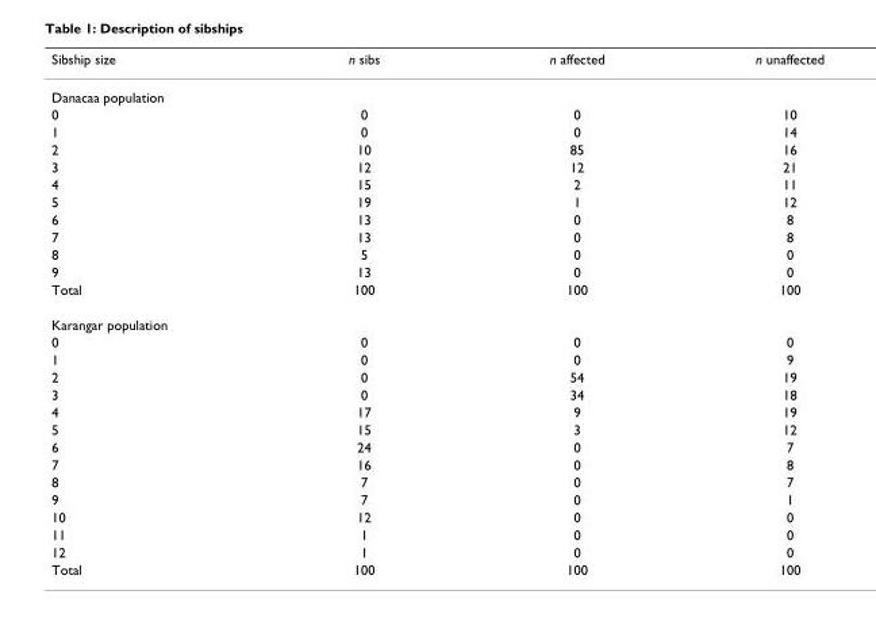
<table><thead><tr><td>Sibship size</td><td>n sibs</td><td>n affected</td><td>n unaffected</td></tr></thead><tbody><tr><td colspan="4">Danacaa population</td></tr><tr><td>0</td><td>0</td><td>0</td><td>10</td></tr><tr><td>1</td><td>0</td><td>0</td><td>14</td></tr><tr><td>2</td><td>10</td><td>85</td><td>16</td></tr><tr><td>3</td><td>12</td><td>12</td><td>21</td></tr><tr><td>4</td><td>15</td><td>2</td><td>11</td></tr><tr><td>5</td><td>19</td><td>1</td><td>12</td></tr><tr><td>6</td><td>13</td><td>0</td><td>8</td></tr><tr><td>7</td><td>13</td><td>0</td><td>8</td></tr><tr><td>8</td><td>5</td><td>0</td><td>0</td></tr><tr><td>9</td><td>13</td><td>0</td><td>0</td></tr><tr><td>Total</td><td>100</td><td>100</td><td>100</td></tr><tr><td colspan="4">Karangar population</td></tr><tr><td>0</td><td>0</td><td>0</td><td>0</td></tr><tr><td>1</td><td>0</td><td>0</td><td>9</td></tr><tr><td>2</td><td>0</td><td>54</td><td>19</td></tr><tr><td>3</td><td>0</td><td>34</td><td>18</td></tr><tr><td>4</td><td>17</td><td>9</td><td>19</td></tr><tr><td>5</td><td>15</td><td>3</td><td>12</td></tr><tr><td>6</td><td>24</td><td>0</td><td>7</td></tr><tr><td>7</td><td>16</td><td>0</td><td>8</td></tr><tr><td>8</td><td>7</td><td>0</td><td>7</td></tr><tr><td>9</td><td>7</td><td>0</td><td>1</td></tr><tr><td>10</td><td>12</td><td>0</td><td>0</td></tr><tr><td>11</td><td>1</td><td>0</td><td>0</td></tr><tr><td>12</td><td>1</td><td>0</td><td>0</td></tr><tr><td>Total</td><td>100</td><td>100</td><td>100</td></tr></tbody></table>